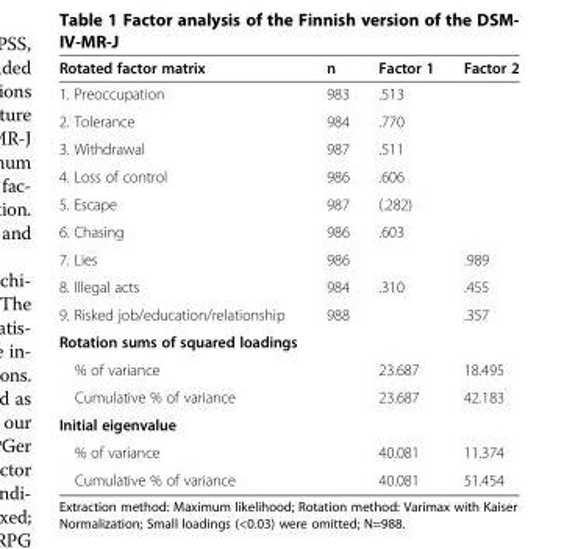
<table><thead><tr><td>Rotated factor matrix</td><td>n</td><td>Factor 1</td><td>Factor 2</td></tr></thead><tbody><tr><td>1. Preoccupation</td><td>983</td><td>.513</td><td></td></tr><tr><td>2. Tolerance</td><td>984</td><td>.770</td><td></td></tr><tr><td>3. Withdrawal</td><td>987</td><td>.511</td><td></td></tr><tr><td>4. Loss of control</td><td>986</td><td>.606</td><td></td></tr><tr><td>5. Escape</td><td>987</td><td>(.282)</td><td></td></tr><tr><td>6. Chasing</td><td>986</td><td>.603</td><td></td></tr><tr><td>7. Lies</td><td>986</td><td></td><td>.989</td></tr><tr><td>8. Illegal acts</td><td>984</td><td>.310</td><td>.455</td></tr><tr><td>9. Risked job/education/relationship</td><td>988</td><td></td><td>.357</td></tr><tr><td colspan="4">Rotation sums of squared loadings</td></tr><tr><td>% of variance</td><td></td><td>23.687</td><td>18.495</td></tr><tr><td>Cumulative % of variance</td><td></td><td>23.687</td><td>42.183</td></tr><tr><td colspan="4">Initial eigenvalue</td></tr><tr><td>% of variance</td><td></td><td>40.081</td><td>11.374</td></tr><tr><td>Cumulative % of variance</td><td></td><td>40.081</td><td>51.454</td></tr></tbody></table>